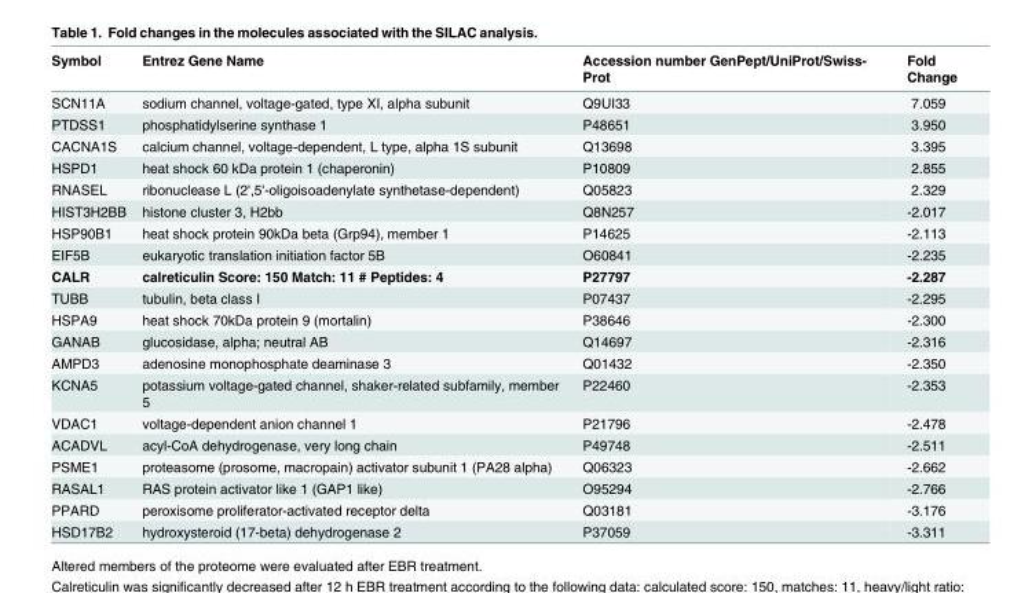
<table><thead><tr><td>Symbol</td><td>Entrez Gene Name</td><td>Accession number GenPept/UniProt/Swiss- Prot</td><td>Fold Change</td></tr></thead><tbody><tr><td>SCN11A</td><td>sodium channel, voltage-gated, type XI, alpha subunit</td><td>Q9UI33</td><td>7.059</td></tr><tr><td>PTDSS1</td><td>phosphatidylserine synthase 1</td><td>P48651</td><td>3.950</td></tr><tr><td>CACNA1S</td><td>calcium channel, voltage-dependent, L type, alpha 1S subunit</td><td>Q13698</td><td>3.395</td></tr><tr><td>HSPD1</td><td>heat shock 60 kDa protein 1 (chaperonin)</td><td>P10809</td><td>2.855</td></tr><tr><td>RNASEL</td><td>ribonuclease L (2&#x27;,5&#x27;-oligoisoadenylate synthetase-dependent)</td><td>Q05823</td><td>2.329</td></tr><tr><td>HIST3H2BB</td><td>histone cluster 3, H2bb</td><td>Q8N257</td><td>-2.017</td></tr><tr><td>HSP90B1</td><td>heat shock protein 90kDa beta (Grp94), member 1</td><td>P14625</td><td>-2.113</td></tr><tr><td>EIF5B</td><td>eukaryotic translation initiation factor 5B</td><td>O60841</td><td>-2.235</td></tr><tr><td>CALR</td><td>calreticulin Score: 150 Match: 11 # Peptides: 4</td><td>P27797</td><td>-2.287</td></tr><tr><td>TUBB</td><td>tubulin, beta class I</td><td>P07437</td><td>-2.295</td></tr><tr><td>HSPA9</td><td>heat shock 70kDa protein 9 (mortalin)</td><td>P38646</td><td>-2.300</td></tr><tr><td>GANAB</td><td>glucosidase, alpha; neutral AB</td><td>Q14697</td><td>-2.316</td></tr><tr><td>AMPD3</td><td>adenosine monophosphate deaminase 3</td><td>Q01432</td><td>-2.350</td></tr><tr><td>KCNA5</td><td>potassium voltage-gated channel, shaker-related subfamily, member 5</td><td>P22460</td><td>-2.353</td></tr><tr><td>VDAC1</td><td>voltage-dependent anion channel 1</td><td>P21796</td><td>-2.478</td></tr><tr><td>ACADVL</td><td>acyl-CoA dehydrogenase, very long chain</td><td>P49748</td><td>-2.511</td></tr><tr><td>PSME1</td><td>proteasome (prosome, macropain) activator subunit 1 (PA28 alpha)</td><td>Q06323</td><td>-2.662</td></tr><tr><td>RASAL1</td><td>RAS protein activator like 1 (GAP1 like)</td><td>O95294</td><td>-2.766</td></tr><tr><td>PPARD</td><td>peroxisome proliferator-activated receptor delta</td><td>Q03181</td><td>-3.176</td></tr><tr><td>HSD17B2</td><td>hydroxysteroid (17-beta) dehydrogenase 2</td><td>P37059</td><td>-3.311</td></tr></tbody></table>